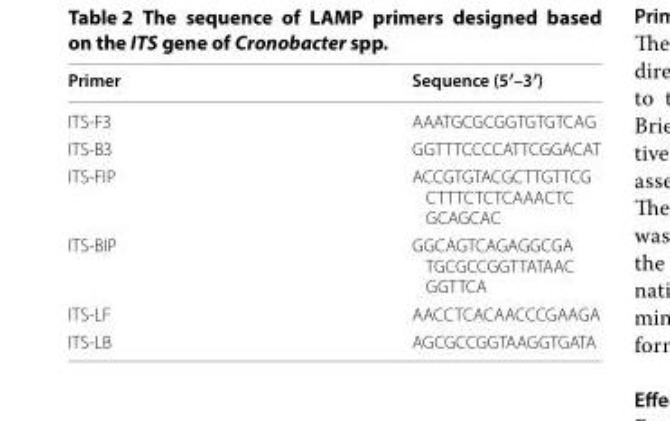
<table><thead><tr><td>Primer</td><td>Sequence (5′–3′)</td></tr></thead><tbody><tr><td>ITS-F3</td><td>AAA TGC GCG GTG TGT CAG</td></tr><tr><td>ITS-B3</td><td>GGT TTC CCC ATT CGG ACA T</td></tr><tr><td>ITS-FIP</td><td>ACC GTG TAC GCT TGT TCG CTT TCT CTC AAA CTC GCA GCAC</td></tr><tr><td>ITS-BIP</td><td>GGC AGT CAG AGG CGA TGC GCC GGT TAT AAC GGT TCA</td></tr><tr><td>ITS-LF</td><td>AAC CTC ACA ACC CGA AGA</td></tr><tr><td>ITS-LB</td><td>AGC GCC GGT AAG GTG ATA</td></tr></tbody></table>